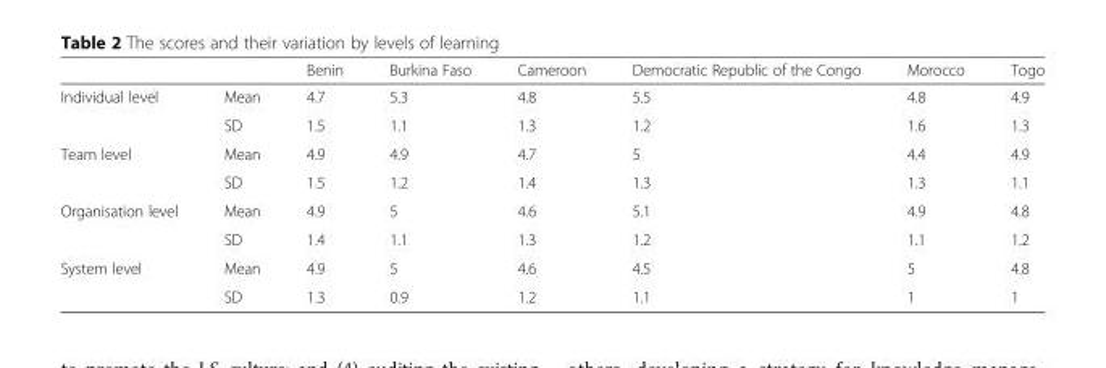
<table><thead><tr><td></td><td></td><td>Benin</td><td>Burkina Faso</td><td>Cameroon</td><td>Democratic Republic of the Congo</td><td>Morocco</td><td>Togo</td></tr></thead><tbody><tr><td rowspan="2">Individual level</td><td>Mean</td><td>4.7</td><td>5.3</td><td>4.8</td><td>5.5</td><td>4.8</td><td>4.9</td></tr><tr><td>SD</td><td>1.5</td><td>1.1</td><td>1.3</td><td>1.2</td><td>1.6</td><td>1.3</td></tr><tr><td rowspan="2">Team level</td><td>Mean</td><td>4.9</td><td>4.9</td><td>4.7</td><td>5</td><td>4.4</td><td>4.9</td></tr><tr><td>SD</td><td>1.5</td><td>1.2</td><td>1.4</td><td>1.3</td><td>1.3</td><td>1.1</td></tr><tr><td rowspan="2">Organisation level</td><td>Mean</td><td>4.9</td><td>5</td><td>4.6</td><td>5.1</td><td>4.9</td><td>4.8</td></tr><tr><td>SD</td><td>1.4</td><td>1.1</td><td>1.3</td><td>1.2</td><td>1.1</td><td>1.2</td></tr><tr><td rowspan="2">System level</td><td>Mean</td><td>4.9</td><td>5</td><td>4.6</td><td>4.5</td><td>5</td><td>4.8</td></tr><tr><td>SD</td><td>1.3</td><td>0.9</td><td>1.2</td><td>1.1</td><td>1</td><td>1</td></tr></tbody></table>